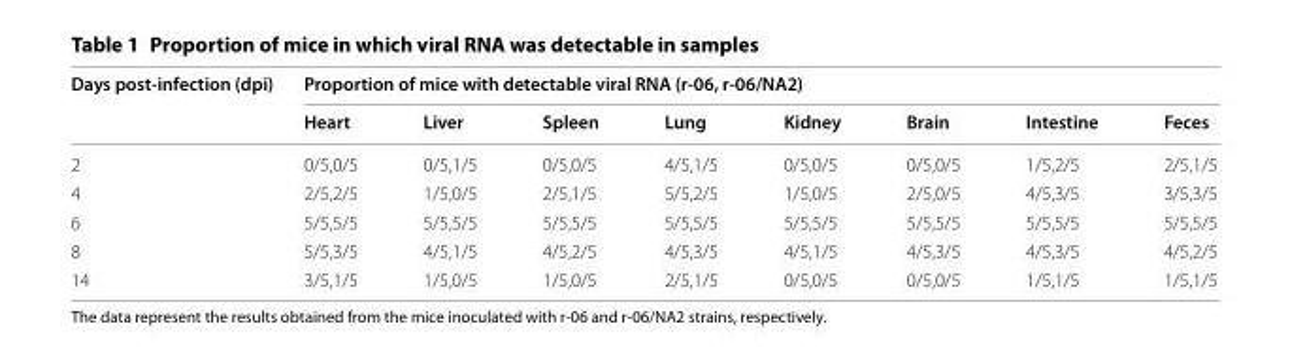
<table><thead><tr><td rowspan="2">Days post‑infection (dpi)</td><td colspan="8">Proportion of mice with detectable viral RNA (r‑06, r‑06/NA2)</td></tr><tr><td>Heart</td><td>Liver</td><td>Spleen</td><td>Lung</td><td>Kidney</td><td>Brain</td><td>Intestine</td><td>Feces</td></tr></thead><tbody><tr><td>2</td><td>0/5,0/5</td><td>0/5,1/5</td><td>0/5,0/5</td><td>4/5,1/5</td><td>0/5,0/5</td><td>0/5,0/5</td><td>1/5,2/5</td><td>2/5,1/5</td></tr><tr><td>4</td><td>2/5,2/5</td><td>1/5,0/5</td><td>2/5,1/5</td><td>5/5,2/5</td><td>1/5,0/5</td><td>2/5,0/5</td><td>4/5,3/5</td><td>3/5,3/5</td></tr><tr><td>6</td><td>5/5,5/5</td><td>5/5,5/5</td><td>5/5,5/5</td><td>5/5,5/5</td><td>5/5,5/5</td><td>5/5,5/5</td><td>5/5,5/5</td><td>5/5,5/5</td></tr><tr><td>8</td><td>5/5,3/5</td><td>4/5,1/5</td><td>4/5,2/5</td><td>4/5,3/5</td><td>4/5,1/5</td><td>4/5,3/5</td><td>4/5,3/5</td><td>4/5,2/5</td></tr><tr><td>14</td><td>3/5,1/5</td><td>1/5,0/5</td><td>1/5,0/5</td><td>2/5,1/5</td><td>0/5,0/5</td><td>0/5,0/5</td><td>1/5,1/5</td><td>1/5,1/5</td></tr></tbody></table>